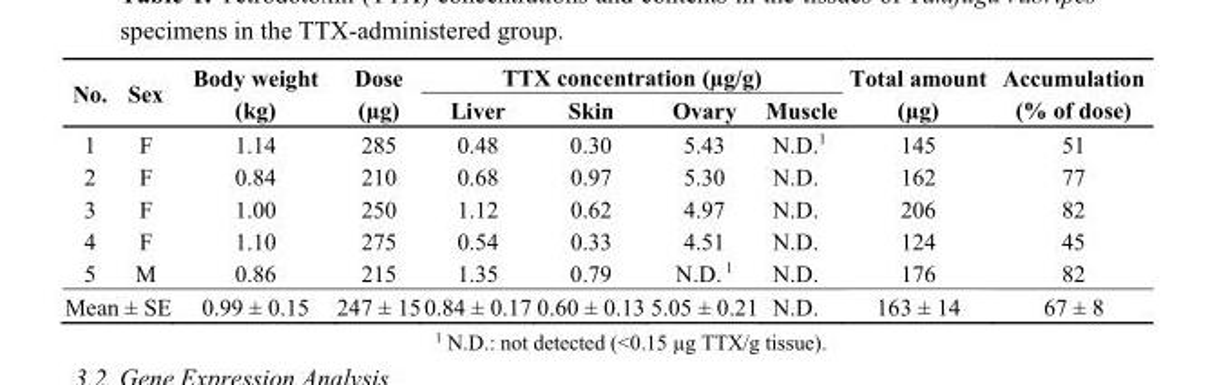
<table><thead><tr><td rowspan="2">No.</td><td rowspan="2">Sex</td><td rowspan="2">Body weight (kg)</td><td rowspan="2">Dose (µg)</td><td colspan="4">TTX concentration (µg/g)</td><td rowspan="2">Total amount (µg)</td><td rowspan="2">Accumulation (% of dose)</td></tr><tr><td>Liver</td><td>Skin</td><td>Ovary</td><td>Muscle</td></tr></thead><tbody><tr><td>1</td><td>F</td><td>1.14</td><td>285</td><td>0.48</td><td>0.30</td><td>5.43</td><td>N.D.<sup>1</sup></td><td>145</td><td>51</td></tr><tr><td>2</td><td>F</td><td>0.84</td><td>210</td><td>0.68</td><td>0.97</td><td>5.30</td><td>N.D.</td><td>162</td><td>77</td></tr><tr><td>3</td><td>F</td><td>1.00</td><td>250</td><td>1.12</td><td>0.62</td><td>4.97</td><td>N.D.</td><td>206</td><td>82</td></tr><tr><td>4</td><td>F</td><td>1.10</td><td>275</td><td>0.54</td><td>0.33</td><td>4.51</td><td>N.D.</td><td>124</td><td>45</td></tr><tr><td>5</td><td>M</td><td>0.86</td><td>215</td><td>1.35</td><td>0.79</td><td>N.D. <sup>1</sup></td><td>N.D.</td><td>176</td><td>82</td></tr><tr><td colspan="2">Mean ± SE</td><td>0.99 ± 0.15</td><td>247 ± 15</td><td>0.84 ± 0.17</td><td>0.60 ± 0.13</td><td>5.05 ± 0.21</td><td>N.D.</td><td>163 ± 14</td><td>67 ± 8</td></tr></tbody></table>